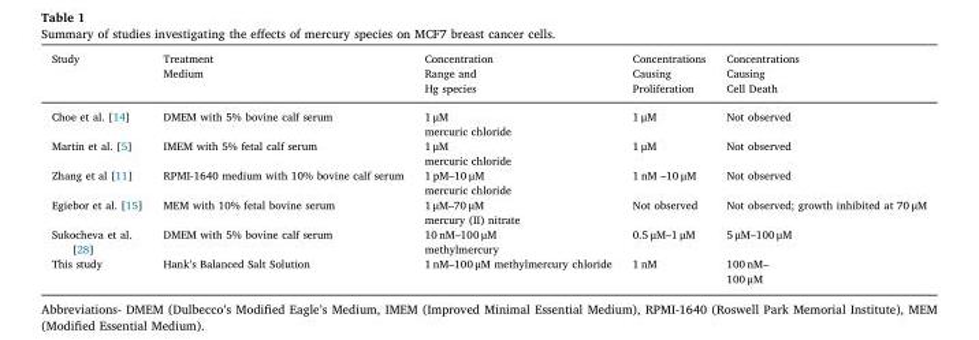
<table><thead><tr><td>Study</td><td>Treatment Medium</td><td>Concentration Range and Hg species</td><td>Concentrations Causing Proliferation</td><td>Concentrations Causing Cell Death</td></tr></thead><tbody><tr><td>Choe et al. [14]</td><td>DMEM with 5% bovine calf serum</td><td>1 μM mercuric chloride</td><td>1 μM</td><td>Not observed</td></tr><tr><td>Martin et al. [5]</td><td>IMEM with 5% fetal calf serum</td><td>1 μM mercuric chloride</td><td>1 μM</td><td>Not observed</td></tr><tr><td>Zhang et al [11]</td><td>RPMI-1640 medium with 10% bovine calf serum</td><td>1 pM–10 μM mercuric chloride</td><td>1 nM –10 μM</td><td>Not observed</td></tr><tr><td>Egiebor et al. [15]</td><td>MEM with 10% fetal bovine serum</td><td>1 μM–70 μM mercury (II) nitrate</td><td>Not observed</td><td>Not observed; growth inhibited at 70 μM</td></tr><tr><td>Sukocheva et al. [28]</td><td>DMEM with 5% bovine calf serum</td><td>10 nM–100 μM methylmercury</td><td>0.5 μM–1 μM</td><td>5 μM–100 μM</td></tr><tr><td>This study</td><td>Hank’s Balanced Salt Solution</td><td>1 nM–100 μM methylmercury chloride</td><td>1 nM</td><td>100 nM– 100 μM</td></tr></tbody></table>